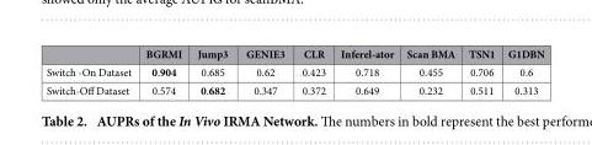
<table><thead><tr><td></td><td>BGRMI</td><td>Jump3</td><td>GENIE3</td><td>CLR</td><td>Inferel-ator</td><td>Scan BMA</td><td>TSN1</td><td>G1DBN</td></tr></thead><tbody><tr><td>Switch -On Dataset</td><td>0.904</td><td>0.685</td><td>0.62</td><td>0.423</td><td>0.718</td><td>0.455</td><td>0.706</td><td>0.6</td></tr><tr><td>Switch-Off Dataset</td><td>0.574</td><td>0.682</td><td>0.347</td><td>0.372</td><td>0.649</td><td>0.232</td><td>0.511</td><td>0.313</td></tr></tbody></table>